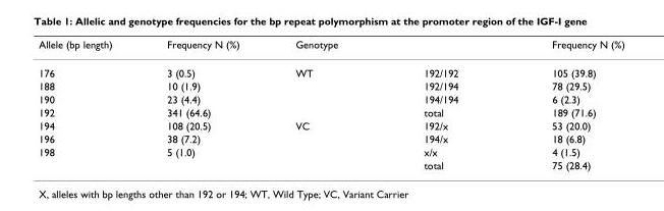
<table><thead><tr><td>Allele (bp length)</td><td>Frequency N (%)</td><td>Genotype</td><td></td><td>Frequency N (%)</td></tr></thead><tbody><tr><td>176</td><td>3 (0.5)</td><td>WT</td><td>192/192</td><td>105 (39.8)</td></tr><tr><td>188</td><td>10 (1.9)</td><td></td><td>192/194</td><td>78 (29.5)</td></tr><tr><td>190</td><td>23 (4.4)</td><td></td><td>194/194</td><td>6 (2.3)</td></tr><tr><td>192</td><td>341 (64.6)</td><td></td><td>total</td><td>189 (71.6)</td></tr><tr><td>194</td><td>108 (20.5)</td><td>VC</td><td>192/x</td><td>53 (20.0)</td></tr><tr><td>196</td><td>38 (7.2)</td><td></td><td>194/x</td><td>18 (6.8)</td></tr><tr><td rowspan="2">198</td><td>5 (1.0)</td><td></td><td>x/x</td><td>4 (1.5)</td></tr><tr><td></td><td></td><td>total</td><td>75 (28.4)</td></tr></tbody></table>